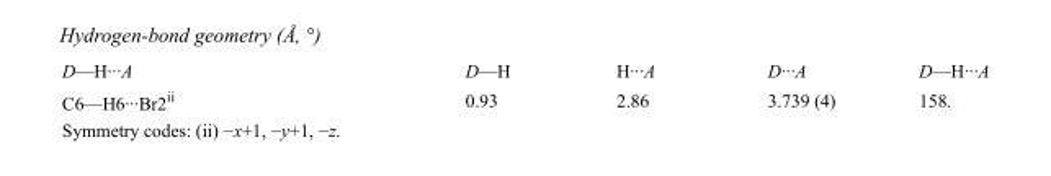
<table><tbody><tr><td>D—H···A</td><td>D—H</td><td>H···A</td><td>D···A</td><td>D—H···A</td></tr><tr><td>C6—H6···Br2<sup>ii</sup></td><td>0.93</td><td>2.86</td><td>3.739 (4)</td><td>158.</td></tr></tbody></table>